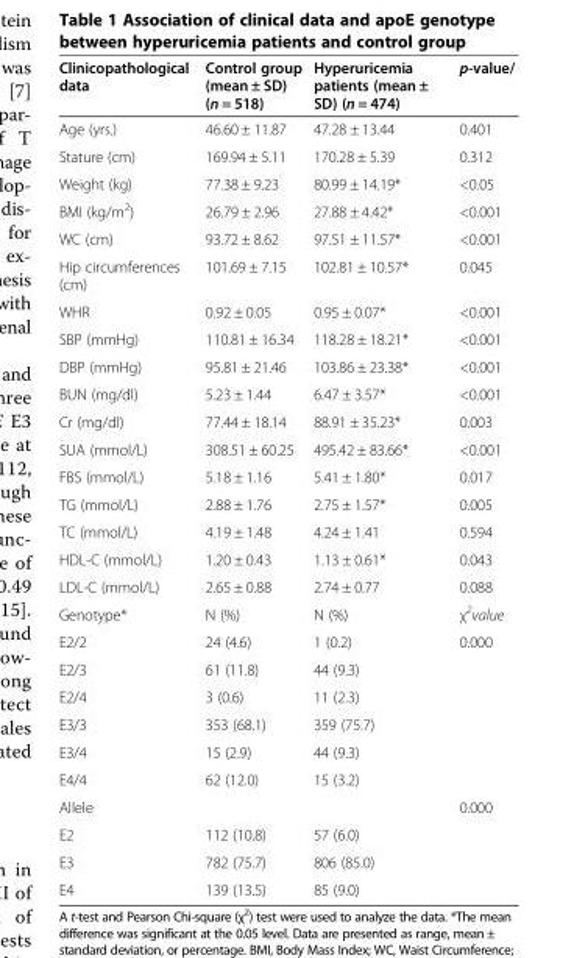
<table><thead><tr><td>Clinicopathological data</td><td>Control group (mean ± SD) (n = 518)</td><td>Hyperuricemia patients (mean ± SD) (n = 474)</td><td>p-value/</td></tr></thead><tbody><tr><td>Age (yrs.)</td><td>46.60 ± 11.87</td><td>47.28 ± 13.44</td><td>0.401</td></tr><tr><td>Stature (cm)</td><td>169.94 ± 5.11</td><td>170.28 ± 5.39</td><td>0.312</td></tr><tr><td>Weight (kg)</td><td>77.38 ± 9.23</td><td>80.99 ± 14.19*</td><td>&lt;0.05</td></tr><tr><td>BMI (kg/m<sup>2</sup>)</td><td>26.79 ± 2.96</td><td>27.88 ± 4.42*</td><td>&lt;0.001</td></tr><tr><td>WC (cm)</td><td>93.72 ± 8.62</td><td>97.51 ± 11.57*</td><td>&lt;0.001</td></tr><tr><td>Hip circumferences (cm)</td><td>101.69 ± 7.15</td><td>102.81 ± 10.57*</td><td>0.045</td></tr><tr><td>WHR</td><td>0.92 ± 0.05</td><td>0.95 ± 0.07*</td><td>&lt;0.001</td></tr><tr><td>SBP (mmHg)</td><td>110.81 ± 16.34</td><td>118.28 ± 18.21*</td><td>&lt;0.001</td></tr><tr><td>DBP (mmHg)</td><td>95.81 ± 21.46</td><td>103.86 ± 23.38*</td><td>&lt;0.001</td></tr><tr><td>BUN (mg/dl)</td><td>5.23 ± 1.44</td><td>6.47 ± 3.57*</td><td>&lt;0.001</td></tr><tr><td>Cr (mg/dl)</td><td>77.44 ± 18.14</td><td>88.91 ± 35.23*</td><td>0.003</td></tr><tr><td>SUA (mmol/L)</td><td>308.51 ± 60.25</td><td>495.42 ± 83.66*</td><td>&lt;0.001</td></tr><tr><td>FBS (mmol/L)</td><td>5.18 ± 1.16</td><td>5.41 ± 1.80*</td><td>0.017</td></tr><tr><td>TG (mmol/L)</td><td>2.88 ± 1.76</td><td>2.75 ± 1.57*</td><td>0.005</td></tr><tr><td>TC (mmol/L)</td><td>4.19 ± 1.48</td><td>4.24 ± 1.41</td><td>0.594</td></tr><tr><td>HDL-C (mmol/L)</td><td>1.20 ± 0.43</td><td>1.13 ± 0.61*</td><td>0.043</td></tr><tr><td>LDL-C (mmol/L)</td><td>2.65 ± 0.88</td><td>2.74 ± 0.77</td><td>0.088</td></tr><tr><td>Genotype*</td><td>N (%)</td><td>N (%)</td><td>χ<sup>2</sup>value</td></tr><tr><td>E2/2</td><td>24 (4.6)</td><td>1 (0.2)</td><td>0.000</td></tr><tr><td>E2/3</td><td>61 (11.8)</td><td>44 (9.3)</td><td></td></tr><tr><td>E2/4</td><td>3 (0.6)</td><td>11 (2.3)</td><td></td></tr><tr><td>E3/3</td><td>353 (68.1)</td><td>359 (75.7)</td><td></td></tr><tr><td>E3/4</td><td>15 (2.9)</td><td>44 (9.3)</td><td></td></tr><tr><td>E4/4</td><td>62 (12.0)</td><td>15 (3.2)</td><td></td></tr><tr><td>Allele</td><td></td><td></td><td>0.000</td></tr><tr><td>E2</td><td>112 (10.8)</td><td>57 (6.0)</td><td></td></tr><tr><td>E3</td><td>782 (75.7)</td><td>806 (85.0)</td><td></td></tr><tr><td>E4</td><td>139 (13.5)</td><td>85 (9.0)</td><td></td></tr></tbody></table>